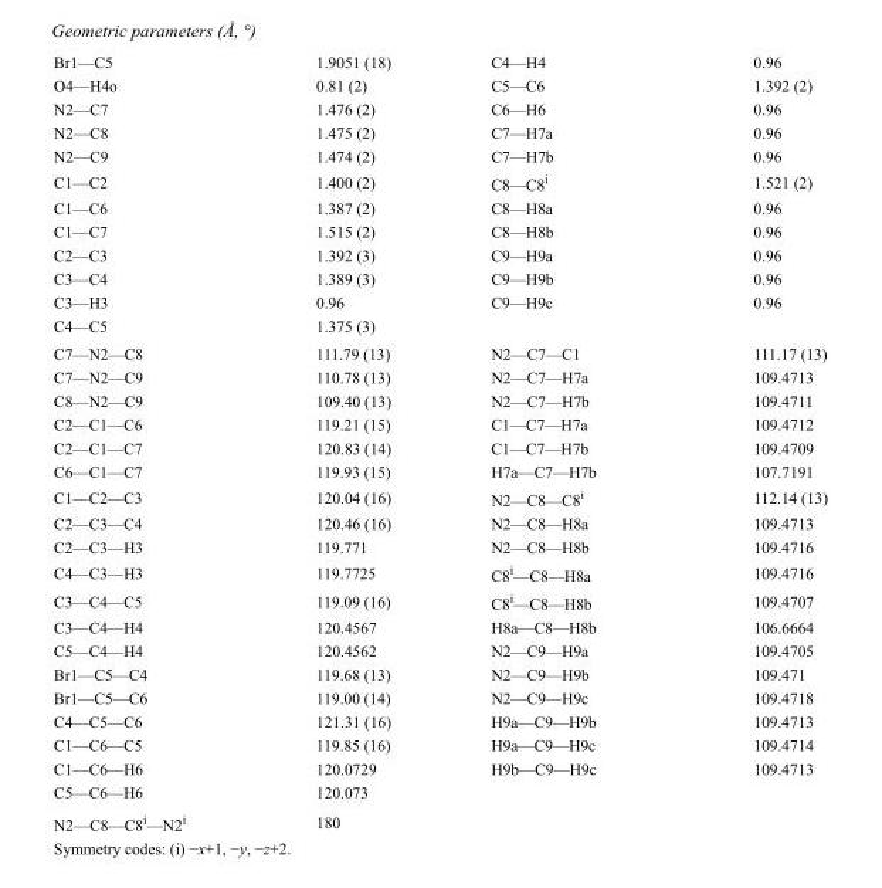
<table><tbody><tr><td>Br1—C5</td><td>1.9051 (18)</td><td>C4—H4</td><td>0.96</td></tr><tr><td>O4—H4o</td><td>0.81 (2)</td><td>C5—C6</td><td>1.392 (2)</td></tr><tr><td>N2—C7</td><td>1.476 (2)</td><td>C6—H6</td><td>0.96</td></tr><tr><td>N2—C8</td><td>1.475 (2)</td><td>C7—H7a</td><td>0.96</td></tr><tr><td>N2—C9</td><td>1.474 (2)</td><td>C7—H7b</td><td>0.96</td></tr><tr><td>C1—C2</td><td>1.400 (2)</td><td>C8—C8<sup>i</sup></td><td>1.521 (2)</td></tr><tr><td>C1—C6</td><td>1.387 (2)</td><td>C8—H8a</td><td>0.96</td></tr><tr><td>C1—C7</td><td>1.515 (2)</td><td>C8—H8b</td><td>0.96</td></tr><tr><td>C2—C3</td><td>1.392 (3)</td><td>C9—H9a</td><td>0.96</td></tr><tr><td>C3—C4</td><td>1.389 (3)</td><td>C9—H9b</td><td>0.96</td></tr><tr><td>C3—H3</td><td>0.96</td><td>C9—H9c</td><td>0.96</td></tr><tr><td>C4—C5</td><td>1.375 (3)</td><td></td><td></td></tr><tr><td>C7—N2—C8</td><td>111.79 (13)</td><td>N2—C7—C1</td><td>111.17 (13)</td></tr><tr><td>C7—N2—C9</td><td>110.78 (13)</td><td>N2—C7—H7a</td><td>109.4713</td></tr><tr><td>C8—N2—C9</td><td>109.40 (13)</td><td>N2—C7—H7b</td><td>109.4711</td></tr><tr><td>C2—C1—C6</td><td>119.21 (15)</td><td>C1—C7—H7a</td><td>109.4712</td></tr><tr><td>C2—C1—C7</td><td>120.83 (14)</td><td>C1—C7—H7b</td><td>109.4709</td></tr><tr><td>C6—C1—C7</td><td>119.93 (15)</td><td>H7a—C7—H7b</td><td>107.7191</td></tr><tr><td>C1—C2—C3</td><td>120.04 (16)</td><td>N2—C8—C8<sup>i</sup></td><td>112.14 (13)</td></tr><tr><td>C2—C3—C4</td><td>120.46 (16)</td><td>N2—C8—H8a</td><td>109.4713</td></tr><tr><td>C2—C3—H3</td><td>119.771</td><td>N2—C8—H8b</td><td>109.4716</td></tr><tr><td>C4—C3—H3</td><td>119.7725</td><td>C8<sup>i</sup>—C8—H8a</td><td>109.4716</td></tr><tr><td>C3—C4—C5</td><td>119.09 (16)</td><td>C8<sup>i</sup>—C8—H8b</td><td>109.4707</td></tr><tr><td>C3—C4—H4</td><td>120.4567</td><td>H8a—C8—H8b</td><td>106.6664</td></tr><tr><td>C5—C4—H4</td><td>120.4562</td><td>N2—C9—H9a</td><td>109.4705</td></tr><tr><td>Br1—C5—C4</td><td>119.68 (13)</td><td>N2—C9—H9b</td><td>109.471</td></tr><tr><td>Br1—C5—C6</td><td>119.00 (14)</td><td>N2—C9—H9c</td><td>109.4718</td></tr><tr><td>C4—C5—C6</td><td>121.31 (16)</td><td>H9a—C9—H9b</td><td>109.4713</td></tr><tr><td>C1—C6—C5</td><td>119.85 (16)</td><td>H9a—C9—H9c</td><td>109.4714</td></tr><tr><td>C1—C6—H6</td><td>120.0729</td><td>H9b—C9—H9c</td><td>109.4713</td></tr><tr><td>C5—C6—H6</td><td>120.073</td><td></td><td></td></tr><tr><td>N2—C8—C8<sup>i</sup>—N2<sup>i</sup></td><td>180</td><td></td><td></td></tr></tbody></table>